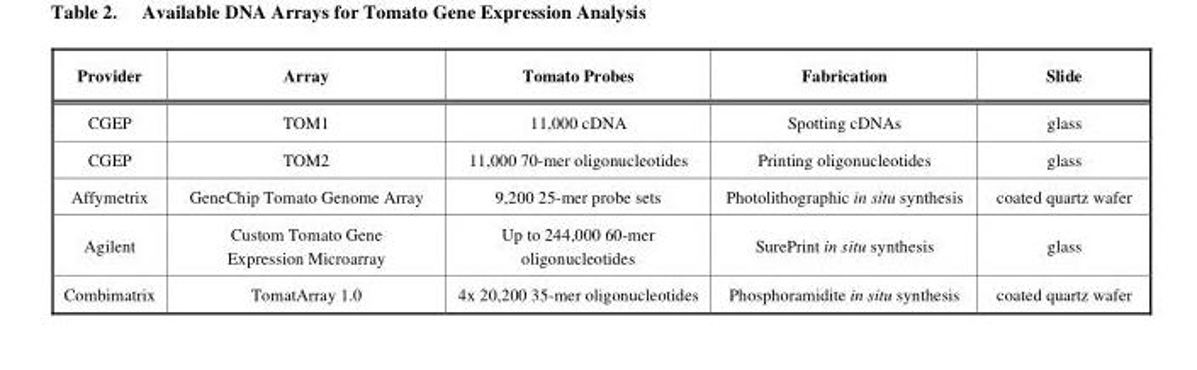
<table><thead><tr><td>Provider</td><td>Array</td><td>Tomato Probes</td><td>Fabrication</td><td>Slide</td></tr></thead><tbody><tr><td>CGEP</td><td>TOM1</td><td>11,000 cDNA</td><td>Spotting cDNAs</td><td>glass</td></tr><tr><td>CGEP</td><td>TOM2</td><td>11,000 70-mer oligonucleotides</td><td>Printing oligonucleotides</td><td>glass</td></tr><tr><td>Affymetrix</td><td>GeneChip Tomato Genome Array</td><td>9,200 25-mer probe sets</td><td>Photolithographic in situ synthesis</td><td>coated quartz wafer</td></tr><tr><td>Agilent</td><td>Custom Tomato Gene Expression Microarray</td><td>Up to 244,000 60-mer oligonucleotides</td><td>SurePrint in situ synthesis</td><td>glass</td></tr><tr><td>Combimatrix</td><td>TomatArray 1.0</td><td>4x 20,200 35-mer oligonucleotides</td><td>Phosphoramidite in situ synthesis</td><td>coated quartz wafer</td></tr></tbody></table>